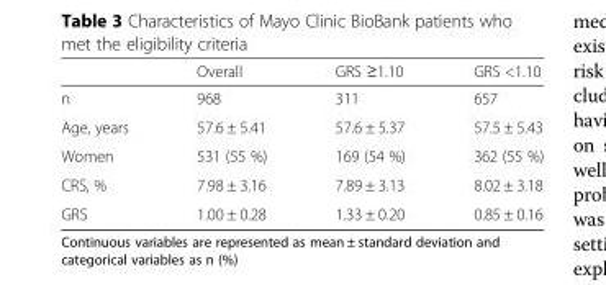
<table><thead><tr><td></td><td>Overall</td><td>GRS ≥1.10</td><td>GRS &lt;1.10</td></tr></thead><tbody><tr><td>n</td><td>968</td><td>311</td><td>657</td></tr><tr><td>Age, years</td><td>57.6 ± 5.41</td><td>57.6 ± 5.37</td><td>57.5 ± 5.43</td></tr><tr><td>Women</td><td>531 (55 %)</td><td>169 (54 %)</td><td>362 (55 %)</td></tr><tr><td>CRS, %</td><td>7.98 ± 3.16</td><td>7.89 ± 3.13</td><td>8.02 ± 3.18</td></tr><tr><td>GRS</td><td>1.00 ± 0.28</td><td>1.33 ± 0.20</td><td>0.85 ± 0.16</td></tr></tbody></table>